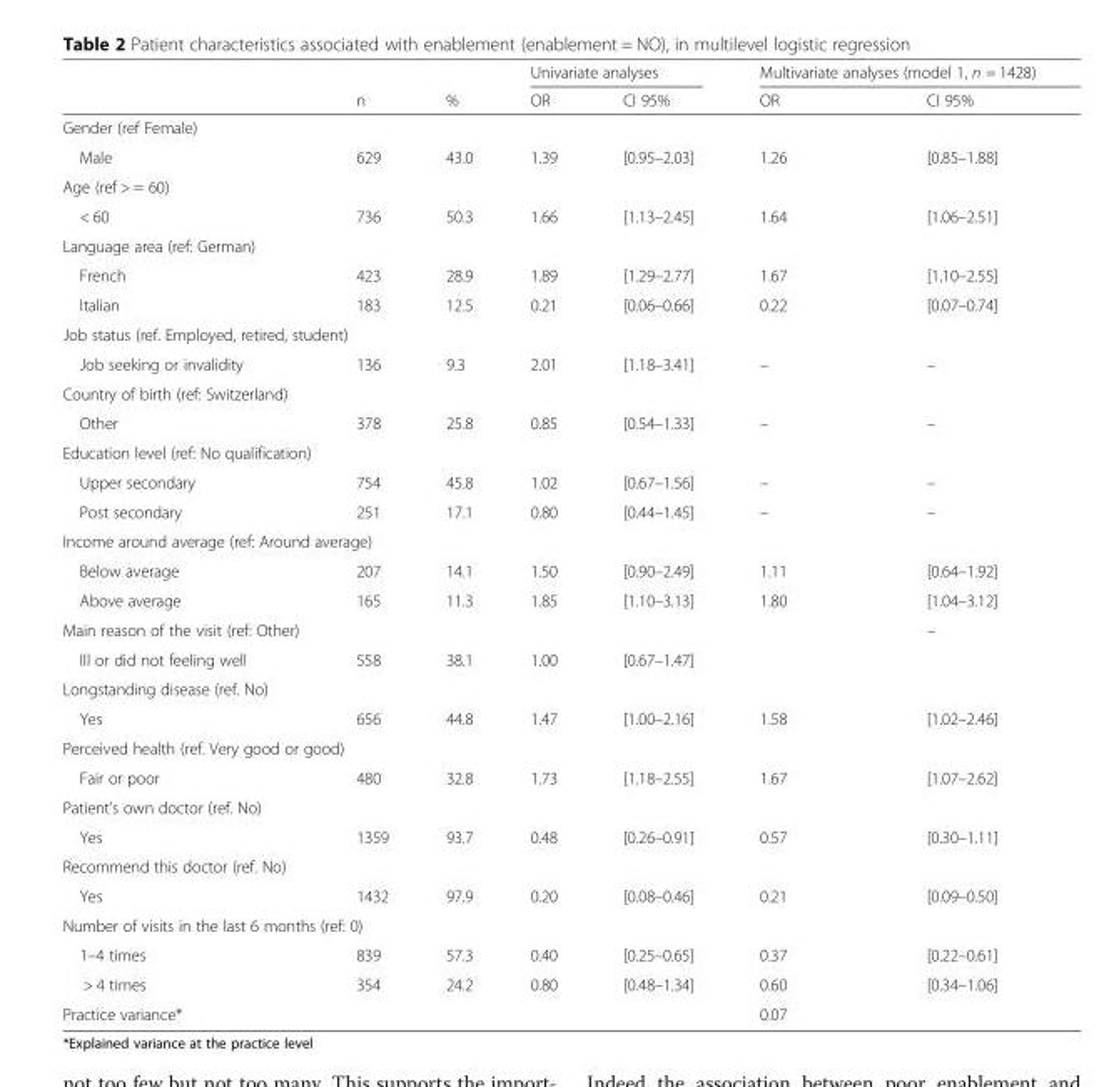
<table><thead><tr><td rowspan="2"></td><td rowspan="2">n</td><td rowspan="2">%</td><td colspan="2">Univariate analyses</td><td colspan="2">Multivariate analyses (model 1, n = 1428)</td></tr><tr><td>OR</td><td>CI 95%</td><td>OR</td><td>CI 95%</td></tr></thead><tbody><tr><td colspan="7">Gender (ref Female)</td></tr><tr><td>Male</td><td>629</td><td>43.0</td><td>1.39</td><td>[0.95–2.03]</td><td>1.26</td><td>[0.85–1.88]</td></tr><tr><td colspan="7">Age (ref &gt; = 60)</td></tr><tr><td>&lt; 60</td><td>736</td><td>50.3</td><td>1.66</td><td>[1.13–2.45]</td><td>1.64</td><td>[1.06–2.51]</td></tr><tr><td colspan="7">Language area (ref: German)</td></tr><tr><td>French</td><td>423</td><td>28.9</td><td>1.89</td><td>[1.29–2.77]</td><td>1.67</td><td>[1.10–2.55]</td></tr><tr><td>Italian</td><td>183</td><td>12.5</td><td>0.21</td><td>[0.06–0.66]</td><td>0.22</td><td>[0.07–0.74]</td></tr><tr><td colspan="7">Job status (ref. Employed, retired, student)</td></tr><tr><td>Job seeking or invalidity</td><td>136</td><td>9.3</td><td>2.01</td><td>[1.18–3.41]</td><td>–</td><td>–</td></tr><tr><td colspan="7">Country of birth (ref: Switzerland)</td></tr><tr><td>Other</td><td>378</td><td>25.8</td><td>0.85</td><td>[0.54–1.33]</td><td>–</td><td>–</td></tr><tr><td colspan="7">Education level (ref: No qualification)</td></tr><tr><td>Upper secondary</td><td>754</td><td>45.8</td><td>1.02</td><td>[0.67–1.56]</td><td>–</td><td>–</td></tr><tr><td>Post secondary</td><td>251</td><td>17.1</td><td>0.80</td><td>[0.44–1.45]</td><td>–</td><td>–</td></tr><tr><td colspan="7">Income around average (ref: Around average)</td></tr><tr><td>Below average</td><td>207</td><td>14.1</td><td>1.50</td><td>[0.90–2.49]</td><td>1.11</td><td>[0.64–1.92]</td></tr><tr><td>Above average</td><td>165</td><td>11.3</td><td>1.85</td><td>[1.10–3.13]</td><td>1.80</td><td>[1.04–3.12]</td></tr><tr><td>Main reason of the visit (ref: Other)</td><td></td><td></td><td></td><td></td><td></td><td>–</td></tr><tr><td>Ill or did not feeling well</td><td>558</td><td>38.1</td><td>1.00</td><td>[0.67–1.47]</td><td></td><td></td></tr><tr><td colspan="7">Longstanding disease (ref. No)</td></tr><tr><td>Yes</td><td>656</td><td>44.8</td><td>1.47</td><td>[1.00–2.16]</td><td>1.58</td><td>[1.02–2.46]</td></tr><tr><td colspan="7">Perceived health (ref. Very good or good)</td></tr><tr><td>Fair or poor</td><td>480</td><td>32.8</td><td>1.73</td><td>[1.18–2.55]</td><td>1.67</td><td>[1.07–2.62]</td></tr><tr><td colspan="7">Patient’s own doctor (ref. No)</td></tr><tr><td>Yes</td><td>1359</td><td>93.7</td><td>0.48</td><td>[0.26–0.91]</td><td>0.57</td><td>[0.30–1.11]</td></tr><tr><td colspan="7">Recommend this doctor (ref. No)</td></tr><tr><td>Yes</td><td>1432</td><td>97.9</td><td>0.20</td><td>[0.08–0.46]</td><td>0.21</td><td>[0.09–0.50]</td></tr><tr><td colspan="7">Number of visits in the last 6 months (ref: 0)</td></tr><tr><td>1–4 times</td><td>839</td><td>57.3</td><td>0.40</td><td>[0.25–0.65]</td><td>0.37</td><td>[0.22–0.61]</td></tr><tr><td>&gt; 4 times</td><td>354</td><td>24.2</td><td>0.80</td><td>[0.48–1.34]</td><td>0.60</td><td>[0.34–1.06]</td></tr><tr><td>Practice variance*</td><td></td><td></td><td></td><td></td><td>0.07</td><td></td></tr></tbody></table>